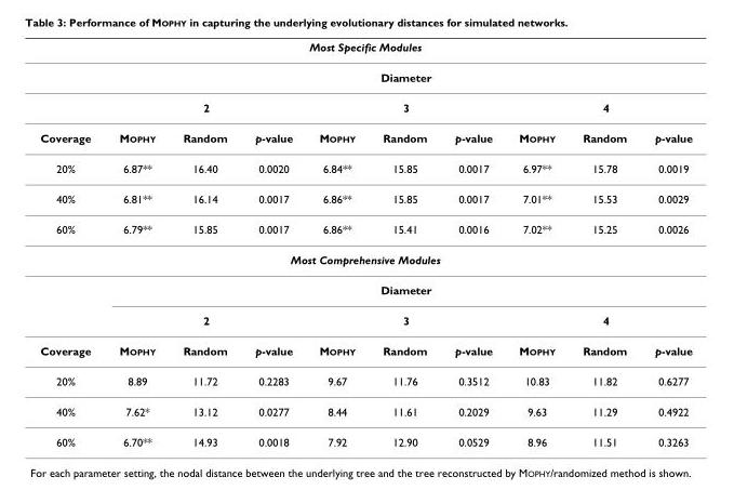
<table><thead><tr><td colspan="10">Most Specific Modules</td></tr><tr><td rowspan="3">Coverage</td><td colspan="9">Diameter</td></tr><tr><td colspan="3">2</td><td colspan="3">3</td><td colspan="3">4</td></tr><tr><td>MOPHY</td><td>Random</td><td>p-value</td><td>MOPHY</td><td>Random</td><td>p-value</td><td>MOPHY</td><td>Random</td><td>p-value</td></tr></thead><tbody><tr><td>20%</td><td>6.87**</td><td>16.40</td><td>0.0020</td><td>6.84**</td><td>15.85</td><td>0.0017</td><td>6.97**</td><td>15.78</td><td>0.0019</td></tr><tr><td>40%</td><td>6.81**</td><td>16.14</td><td>0.0017</td><td>6.86**</td><td>15.85</td><td>0.0017</td><td>7.01**</td><td>15.53</td><td>0.0029</td></tr><tr><td>60%</td><td>6.79**</td><td>15.85</td><td>0.0017</td><td>6.86**</td><td>15.41</td><td>0.0016</td><td>7.02**</td><td>15.25</td><td>0.0026</td></tr><tr><td colspan="10">Most Comprehensive Modules</td></tr><tr><td></td><td colspan="9">Diameter</td></tr><tr><td></td><td colspan="3">2</td><td colspan="3">3</td><td colspan="3">4</td></tr><tr><td>Coverage</td><td>MOPHY</td><td>Random</td><td>p-value</td><td>MOPHY</td><td>Random</td><td>p-value</td><td>MOPHY</td><td>Random</td><td>p-value</td></tr><tr><td>20%</td><td>8.89</td><td>11.72</td><td>0.2283</td><td>9.67</td><td>11.76</td><td>0.3512</td><td>10.83</td><td>11.82</td><td>0.6277</td></tr><tr><td>40%</td><td>7.62*</td><td>13.12</td><td>0.0277</td><td>8.44</td><td>11.61</td><td>0.2029</td><td>9.63</td><td>11.29</td><td>0.4922</td></tr><tr><td>60%</td><td>6.70**</td><td>14.93</td><td>0.0018</td><td>7.92</td><td>12.90</td><td>0.0529</td><td>8.96</td><td>11.51</td><td>0.3263</td></tr></tbody></table>